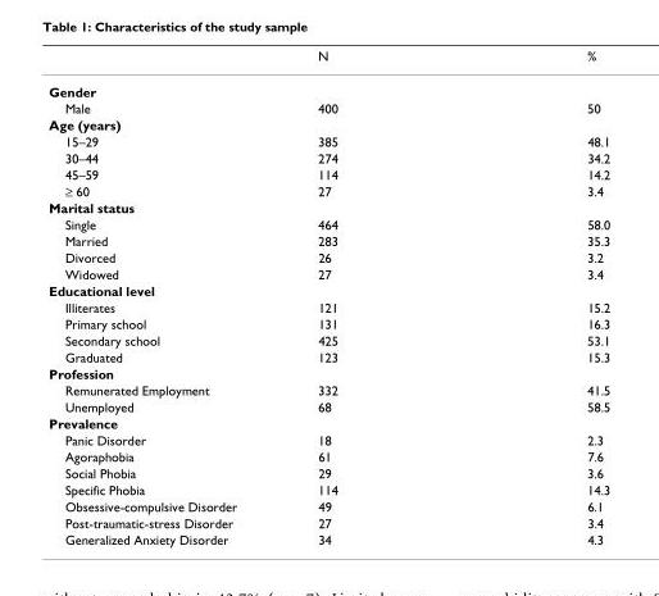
<table><thead><tr><td></td><td>N</td><td>%</td></tr></thead><tbody><tr><td colspan="3">Gender</td></tr><tr><td>Male</td><td>400</td><td>50</td></tr><tr><td colspan="3">Age (years)</td></tr><tr><td>15–29</td><td>385</td><td>48.1</td></tr><tr><td>30–44</td><td>274</td><td>34.2</td></tr><tr><td>45–59</td><td>114</td><td>14.2</td></tr><tr><td>≥ 60</td><td>27</td><td>3.4</td></tr><tr><td colspan="3">Marital status</td></tr><tr><td>Single</td><td>464</td><td>58.0</td></tr><tr><td>Married</td><td>283</td><td>35.3</td></tr><tr><td>Divorced</td><td>26</td><td>3.2</td></tr><tr><td>Widowed</td><td>27</td><td>3.4</td></tr><tr><td colspan="3">Educational level</td></tr><tr><td>Illiterates</td><td>121</td><td>15.2</td></tr><tr><td>Primary school</td><td>131</td><td>16.3</td></tr><tr><td>Secondary school</td><td>425</td><td>53.1</td></tr><tr><td>Graduated</td><td>123</td><td>15.3</td></tr><tr><td colspan="3">Profession</td></tr><tr><td>Remunerated Employment</td><td>332</td><td>41.5</td></tr><tr><td>Unemployed</td><td>68</td><td>58.5</td></tr><tr><td colspan="3">Prevalence</td></tr><tr><td>Panic Disorder</td><td>18</td><td>2.3</td></tr><tr><td>Agoraphobia</td><td>61</td><td>7.6</td></tr><tr><td>Social Phobia</td><td>29</td><td>3.6</td></tr><tr><td>Specific Phobia</td><td>114</td><td>14.3</td></tr><tr><td>Obsessive-compulsive Disorder</td><td>49</td><td>6.1</td></tr><tr><td>Post-traumatic-stress Disorder</td><td>27</td><td>3.4</td></tr><tr><td>Generalized Anxiety Disorder</td><td>34</td><td>4.3</td></tr></tbody></table>